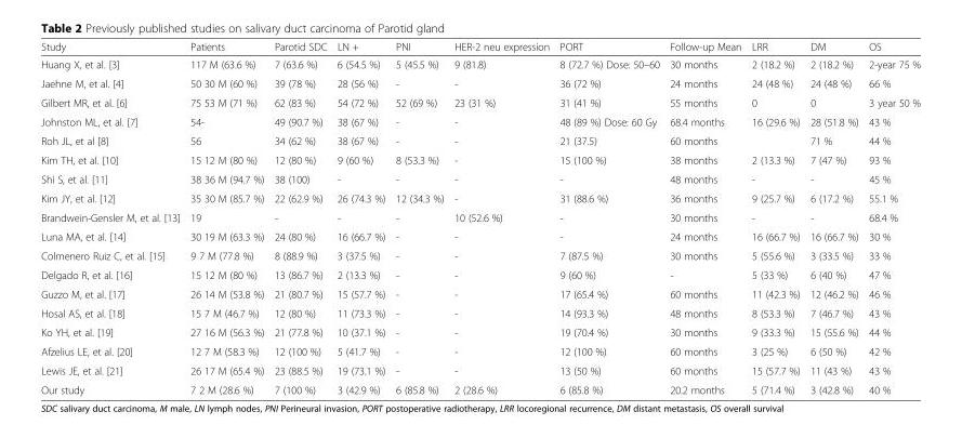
<table><thead><tr><td>Study</td><td>Patients</td><td>Parotid SDC</td><td>LN +</td><td>PNI</td><td>HER-2 neu expression</td><td>PORT</td><td>Follow-up Mean</td><td>LRR</td><td>DM</td><td>OS</td></tr></thead><tbody><tr><td>Huang X, et al. [3]</td><td>117 M (63.6 %)</td><td>7 (63.6 %)</td><td>6 (54.5 %)</td><td>5 (45.5 %)</td><td>9 (81.8)</td><td>8 (72.7 %) Dose: 50–60</td><td>30 months</td><td>2 (18.2 %)</td><td>2 (18.2 %)</td><td>2-year 75 %</td></tr><tr><td>Jaehne M, et al. [4]</td><td>50 30 M (60 %)</td><td>39 (78 %)</td><td>28 (56 %)</td><td>-</td><td>-</td><td>36 (72 %)</td><td>24 months</td><td>24 (48 %)</td><td>24 (48 %)</td><td>66 %</td></tr><tr><td>Gilbert MR, et al. [6]</td><td>75 53 M (71 %)</td><td>62 (83 %)</td><td>54 (72 %)</td><td>52 (69 %)</td><td>23 (31 %)</td><td>31 (41 %)</td><td>55 months</td><td>0</td><td>0</td><td>3 year 50 %</td></tr><tr><td>Johnston ML, et al. [7]</td><td>54-</td><td>49 (90.7 %)</td><td>38 (67 %)</td><td>-</td><td>-</td><td>48 (89 %) Dose: 60 Gy</td><td>68.4 months</td><td>16 (29.6 %)</td><td>28 (51.8 %)</td><td>43 %</td></tr><tr><td>Roh JL, et al [8]</td><td>56</td><td>34 (62 %)</td><td>38 (67 %)</td><td>-</td><td>-</td><td>21 (37.5)</td><td>60 months</td><td></td><td>71 %</td><td>44 %</td></tr><tr><td>Kim TH, et al. [10]</td><td>15 12 M (80 %)</td><td>12 (80 %)</td><td>9 (60 %)</td><td>8 (53.3 %)</td><td>-</td><td>15 (100 %)</td><td>38 months</td><td>2 (13.3 %)</td><td>7 (47 %)</td><td>93 %</td></tr><tr><td>Shi S, et al. [11]</td><td>38 36 M (94.7 %)</td><td>38 (100)</td><td>-</td><td>-</td><td>-</td><td>-</td><td>48 months</td><td>-</td><td>-</td><td>45 %</td></tr><tr><td>Kim JY, et al. [12]</td><td>35 30 M (85.7 %)</td><td>22 (62.9 %)</td><td>26 (74.3 %)</td><td>12 (34.3 %)</td><td>-</td><td>31 (88.6 %)</td><td>36 months</td><td>9 (25.7 %)</td><td>6 (17.2 %)</td><td>55.1 %</td></tr><tr><td>Brandwein-Gensler M, et al. [13]</td><td>19</td><td>-</td><td>-</td><td>-</td><td>10 (52.6 %)</td><td>-</td><td>30 months</td><td>-</td><td>-</td><td>68.4 %</td></tr><tr><td>Luna MA, et al. [14]</td><td>30 19 M (63.3 %)</td><td>24 (80 %)</td><td>16 (66.7 %)</td><td>-</td><td>-</td><td>-</td><td>24 months</td><td>16 (66.7 %)</td><td>16 (66.7 %)</td><td>30 %</td></tr><tr><td>Colmenero Ruiz C, et al. [15]</td><td>9 7 M (77.8 %)</td><td>8 (88.9 %)</td><td>3 (37.5 %)</td><td>-</td><td>-</td><td>7 (87.5 %)</td><td>30 months</td><td>5 (55.6 %)</td><td>3 (33.5 %)</td><td>33 %</td></tr><tr><td>Delgado R, et al. [16]</td><td>15 12 M (80 %)</td><td>13 (86.7 %)</td><td>2 (13.3 %)</td><td>-</td><td>-</td><td>9 (60 %)</td><td>-</td><td>5 (33 %)</td><td>6 (40 %)</td><td>47 %</td></tr><tr><td>Guzzo M, et al. [17]</td><td>26 14 M (53.8 %)</td><td>21 (80.7 %)</td><td>15 (57.7 %)</td><td>-</td><td>-</td><td>17 (65.4 %)</td><td>60 months</td><td>11 (42.3 %)</td><td>12 (46.2 %)</td><td>46 %</td></tr><tr><td>Hosal AS, et al. [18]</td><td>15 7 M (46.7 %)</td><td>12 (80 %)</td><td>11 (73.3 %)</td><td>-</td><td>-</td><td>14 (93.3 %)</td><td>48 months</td><td>8 (53.3 %)</td><td>7 (46.7 %)</td><td>43 %</td></tr><tr><td>Ko YH, et al. [19]</td><td>27 16 M (56.3 %)</td><td>21 (77.8 %)</td><td>10 (37.1 %)</td><td>-</td><td>-</td><td>19 (70.4 %)</td><td>30 months</td><td>9 (33.3 %)</td><td>15 (55.6 %)</td><td>44 %</td></tr><tr><td>Afzelius LE, et al. [20]</td><td>12 7 M (58.3 %)</td><td>12 (100 %)</td><td>5 (41.7 %)</td><td>-</td><td>-</td><td>12 (100 %)</td><td>60 months</td><td>3 (25 %)</td><td>6 (50 %)</td><td>42 %</td></tr><tr><td>Lewis JE, et al. [21]</td><td>26 17 M (65.4 %)</td><td>23 (88.5 %)</td><td>19 (73.1 %)</td><td>-</td><td>-</td><td>13 (50 %)</td><td>60 months</td><td>15 (57.7 %)</td><td>11 (43 %)</td><td>43 %</td></tr><tr><td>Our study</td><td>7 2 M (28.6 %)</td><td>7 (100 %)</td><td>3 (42.9 %)</td><td>6 (85.8 %)</td><td>2 (28.6 %)</td><td>6 (85.8 %)</td><td>20.2 months</td><td>5 (71.4 %)</td><td>3 (42.8 %)</td><td>40 %</td></tr></tbody></table>